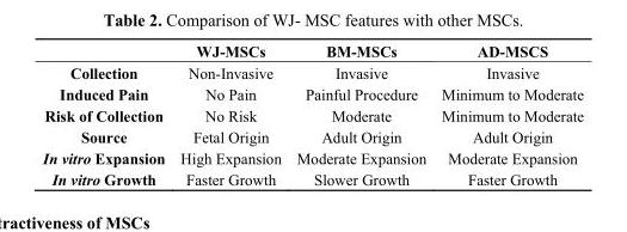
<table><thead><tr><td></td><td>WJ-MSCs</td><td>BM-MSCs</td><td>AD-MSCS</td></tr></thead><tbody><tr><td>Collection</td><td>Non-Invasive</td><td>Invasive</td><td>Invasive</td></tr><tr><td>Induced Pain</td><td>No Pain</td><td>Painful Procedure</td><td>Minimum to Moderate</td></tr><tr><td>Risk of Collection</td><td>No Risk</td><td>Moderate</td><td>Minimum to Moderate</td></tr><tr><td>Source</td><td>Fetal Origin</td><td>Adult Origin</td><td>Adult Origin</td></tr><tr><td>In vitro Expansion</td><td>High Expansion</td><td>Moderate Expansion</td><td>Moderate Expansion</td></tr><tr><td>In vitro Growth</td><td>Faster Growth</td><td>Slower Growth</td><td>Faster Growth</td></tr></tbody></table>